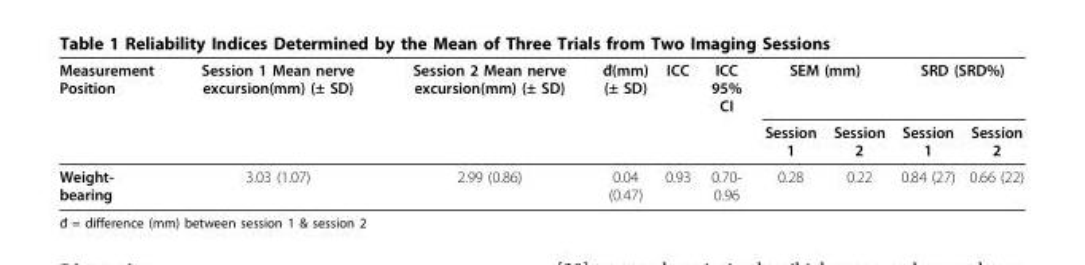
<table><thead><tr><td rowspan="2">Measurement Position</td><td rowspan="2">Session 1 Mean nerve excursion(mm) (± SD)</td><td rowspan="2">Session 2 Mean nerve excursion(mm) (± SD)</td><td rowspan="2">đ(mm) (± SD)</td><td rowspan="2">ICC</td><td rowspan="2">ICC 95% CI</td><td colspan="2">SEM (mm)</td><td colspan="2">SRD (SRD%)</td></tr><tr><td>Session 1</td><td>Session 2</td><td>Session 1</td><td>Session 2</td></tr></thead><tbody><tr><td>Weight- bearing</td><td>3.03 (1.07)</td><td>2.99 (0.86)</td><td>0.04 (0.47)</td><td>0.93</td><td>0.70- 0.96</td><td>0.28</td><td>0.22</td><td>0.84 (27)</td><td>0.66 (22)</td></tr></tbody></table>